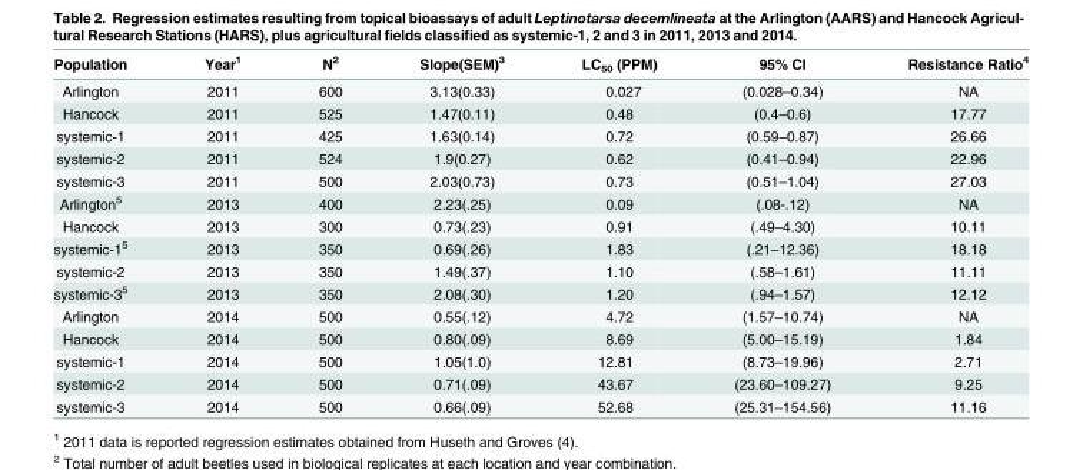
<table><thead><tr><td>Population</td><td>Year<sup>1</sup></td><td>N<sup>2</sup></td><td>Slope(SEM)<sup>3</sup></td><td>LC<sub>50</sub> (PPM)</td><td>95% CI</td><td>Resistance Ratio<sup>4</sup></td></tr></thead><tbody><tr><td>Arlington</td><td>2011</td><td>600</td><td>3.13(0.33)</td><td>0.027</td><td>(0.028–0.34)</td><td>NA</td></tr><tr><td>Hancock</td><td>2011</td><td>525</td><td>1.47(0.11)</td><td>0.48</td><td>(0.4–0.6)</td><td>17.77</td></tr><tr><td>systemic-1</td><td>2011</td><td>425</td><td>1.63(0.14)</td><td>0.72</td><td>(0.59–0.87)</td><td>26.66</td></tr><tr><td>systemic-2</td><td>2011</td><td>524</td><td>1.9(0.27)</td><td>0.62</td><td>(0.41–0.94)</td><td>22.96</td></tr><tr><td>systemic-3</td><td>2011</td><td>500</td><td>2.03(0.73)</td><td>0.73</td><td>(0.51–1.04)</td><td>27.03</td></tr><tr><td>Arlington<sup>5</sup></td><td>2013</td><td>400</td><td>2.23(.25)</td><td>0.09</td><td>(.08-.12)</td><td>NA</td></tr><tr><td>Hancock</td><td>2013</td><td>300</td><td>0.73(.23)</td><td>0.91</td><td>(.49–4.30)</td><td>10.11</td></tr><tr><td>systemic-1<sup>5</sup></td><td>2013</td><td>350</td><td>0.69(.26)</td><td>1.83</td><td>(.21–12.36)</td><td>18.18</td></tr><tr><td>systemic-2</td><td>2013</td><td>350</td><td>1.49(.37)</td><td>1.10</td><td>(.58–1.61)</td><td>11.11</td></tr><tr><td>systemic-3<sup>5</sup></td><td>2013</td><td>350</td><td>2.08(.30)</td><td>1.20</td><td>(.94–1.57)</td><td>12.12</td></tr><tr><td>Arlington</td><td>2014</td><td>500</td><td>0.55(.12)</td><td>4.72</td><td>(1.57–10.74)</td><td>NA</td></tr><tr><td>Hancock</td><td>2014</td><td>500</td><td>0.80(.09)</td><td>8.69</td><td>(5.00–15.19)</td><td>1.84</td></tr><tr><td>systemic-1</td><td>2014</td><td>500</td><td>1.05(1.0)</td><td>12.81</td><td>(8.73–19.96)</td><td>2.71</td></tr><tr><td>systemic-2</td><td>2014</td><td>500</td><td>0.71(.09)</td><td>43.67</td><td>(23.60–109.27)</td><td>9.25</td></tr><tr><td>systemic-3</td><td>2014</td><td>500</td><td>0.66(.09)</td><td>52.68</td><td>(25.31–154.56)</td><td>11.16</td></tr></tbody></table>